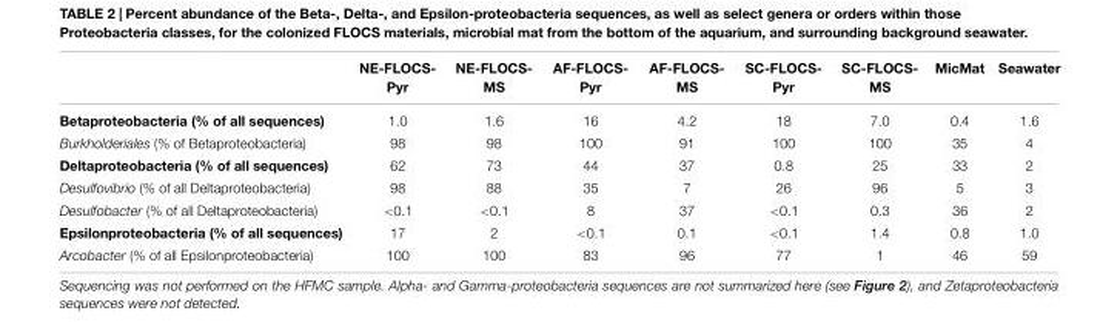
<table><thead><tr><td></td><td>NE-FLOCS- Pyr</td><td>NE-FLOCS- MS</td><td>AF-FLOCS- Pyr</td><td>AF-FLOCS- MS</td><td>SC-FLOCS- Pyr</td><td>SC-FLOCS- MS</td><td>MicMat</td><td>Seawater</td></tr></thead><tbody><tr><td>Betaproteobacteria (% of all sequences)</td><td>1.0</td><td>1.6</td><td>16</td><td>4.2</td><td>18</td><td>7.0</td><td>0.4</td><td>1.6</td></tr><tr><td>Burkholderiales (% of Betaproteobacteria)</td><td>98</td><td>98</td><td>100</td><td>91</td><td>100</td><td>100</td><td>35</td><td>4</td></tr><tr><td>Deltaproteobacteria (% of all sequences)</td><td>62</td><td>73</td><td>44</td><td>37</td><td>0.8</td><td>25</td><td>33</td><td>2</td></tr><tr><td>Desulfovibrio (% of all Deltaproteobacteria)</td><td>98</td><td>88</td><td>35</td><td>7</td><td>26</td><td>96</td><td>5</td><td>3</td></tr><tr><td>Desulfobacter (% of all Deltaproteobacteria)</td><td>&lt;0.1</td><td>&lt;0.1</td><td>8</td><td>37</td><td>&lt;0.1</td><td>0.3</td><td>36</td><td>2</td></tr><tr><td>Epsilonproteobacteria (% of all sequences)</td><td>17</td><td>2</td><td>&lt;0.1</td><td>0.1</td><td>&lt;0.1</td><td>1.4</td><td>0.8</td><td>1.0</td></tr><tr><td>Arcobacter (% of all Epsilonproteobacteria)</td><td>100</td><td>100</td><td>83</td><td>96</td><td>77</td><td>1</td><td>46</td><td>59</td></tr></tbody></table>